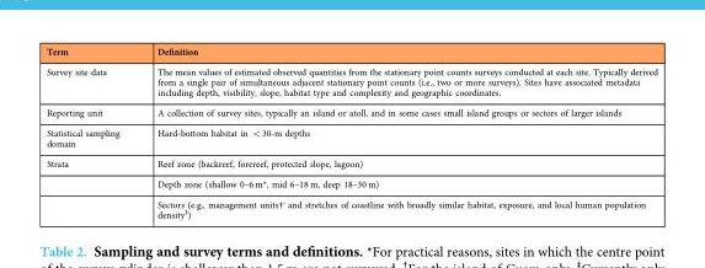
<table><thead><tr><td>Term</td><td>Definition</td></tr></thead><tbody><tr><td>Survey site data</td><td>The mean values of estimated observed quantities from the stationary point counts surveys conducted at each site. Typically derived from a single pair of simultaneous adjacent stationary point counts (i.e., two or more surveys). Sites have associated metadata including depth, visibility, slope, habitat type and complexity and geographic coordinates.</td></tr><tr><td>Reporting unit</td><td>A collection of survey sites, typically an island or atoll, and in some cases small island groups or sectors of larger islands</td></tr><tr><td>Statistical sampling domain</td><td>Hard-bottom habitat in &lt;30-m depths</td></tr><tr><td rowspan="3">Strata</td><td>Reef zone (backreef, forereef, protected slope, lagoon)</td></tr><tr><td>Depth zone (shallow 0–6 m*, mid 6–18 m, deep 18–30 m)</td></tr><tr><td>Sectors (e.g., management units†, and stretches of coastline with broadly similar habitat, exposure, and local human population density‡)</td></tr></tbody></table>